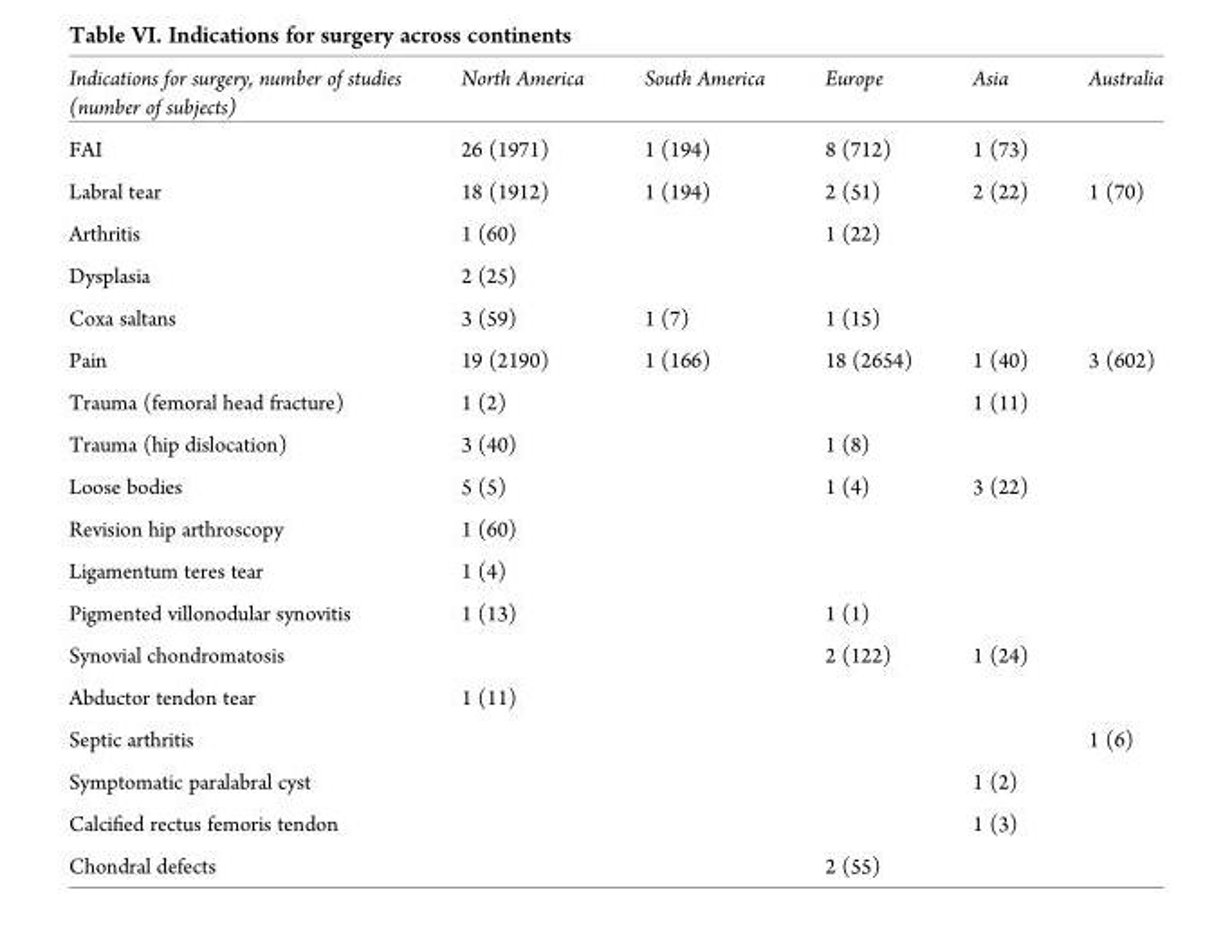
<table><thead><tr><td>Indications for surgery, number of studies (number of subjects)</td><td>North America</td><td>South America</td><td>Europe</td><td>Asia</td><td>Australia</td></tr></thead><tbody><tr><td>FAI</td><td>26 (1971)</td><td>1 (194)</td><td>8 (712)</td><td>1 (73)</td><td></td></tr><tr><td>Labral tear</td><td>18 (1912)</td><td>1 (194)</td><td>2 (51)</td><td>2 (22)</td><td>1 (70)</td></tr><tr><td>Arthritis</td><td>1 (60)</td><td></td><td>1 (22)</td><td></td><td></td></tr><tr><td>Dysplasia</td><td>2 (25)</td><td></td><td></td><td></td><td></td></tr><tr><td>Coxa saltans</td><td>3 (59)</td><td>1 (7)</td><td>1 (15)</td><td></td><td></td></tr><tr><td>Pain</td><td>19 (2190)</td><td>1 (166)</td><td>18 (2654)</td><td>1 (40)</td><td>3 (602)</td></tr><tr><td>Trauma (femoral head fracture)</td><td>1 (2)</td><td></td><td></td><td>1 (11)</td><td></td></tr><tr><td>Trauma (hip dislocation)</td><td>3 (40)</td><td></td><td>1 (8)</td><td></td><td></td></tr><tr><td>Loose bodies</td><td>5 (5)</td><td></td><td>1 (4)</td><td>3 (22)</td><td></td></tr><tr><td>Revision hip arthroscopy</td><td>1 (60)</td><td></td><td></td><td></td><td></td></tr><tr><td>Ligamentum teres tear</td><td>1 (4)</td><td></td><td></td><td></td><td></td></tr><tr><td>Pigmented villonodular synovitis</td><td>1 (13)</td><td></td><td>1 (1)</td><td></td><td></td></tr><tr><td>Synovial chondromatosis</td><td></td><td></td><td>2 (122)</td><td>1 (24)</td><td></td></tr><tr><td>Abductor tendon tear</td><td>1 (11)</td><td></td><td></td><td></td><td></td></tr><tr><td>Septic arthritis</td><td></td><td></td><td></td><td></td><td>1 (6)</td></tr><tr><td>Symptomatic paralabral cyst</td><td></td><td></td><td></td><td>1 (2)</td><td></td></tr><tr><td>Calcified rectus femoris tendon</td><td></td><td></td><td></td><td>1 (3)</td><td></td></tr><tr><td>Chondral defects</td><td></td><td></td><td>2 (55)</td><td></td><td></td></tr></tbody></table>